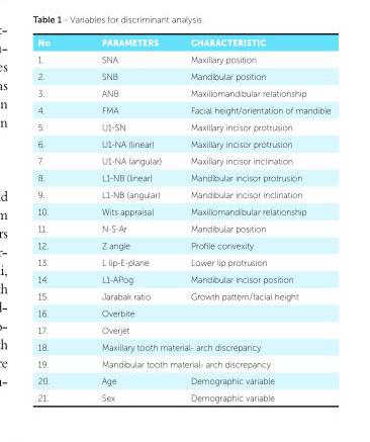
<table><tbody><tr><td>No</td><td>PARAMETERS</td><td>CHARACTERISTIC</td></tr><tr><td>1.</td><td>SNA</td><td>Maxillary position</td></tr><tr><td>2.</td><td>SNB</td><td>Mandibular position</td></tr><tr><td>3.</td><td>ANB</td><td>Maxillomandibular relationship</td></tr><tr><td>4.</td><td>FMA</td><td>Facial height/orientation of mandible</td></tr><tr><td>5.</td><td>U1-SN</td><td>Maxillary incisor protrusion</td></tr><tr><td>6.</td><td>U1-NA (linear)</td><td>Maxillary incisor protrusion</td></tr><tr><td>7.</td><td>U1-NA (angular)</td><td>Maxillary incisor inclination</td></tr><tr><td>8.</td><td>L1-NB (linear)</td><td>Mandibular incisor protrusion</td></tr><tr><td>9.</td><td>L1-NB (angular)</td><td>Mandibular incisor inclination</td></tr><tr><td>10.</td><td>Wits appraisal</td><td>Maxillomandibular relationship</td></tr><tr><td>11.</td><td>N-S-Ar</td><td>Mandibular position</td></tr><tr><td>12.</td><td>Z angle</td><td>Profile convexity</td></tr><tr><td>13.</td><td>L lip-E-plane</td><td>Lower lip protrusion</td></tr><tr><td>14.</td><td>L1-APog</td><td>Mandibular incisor position</td></tr><tr><td>15.</td><td>Jarabak ratio</td><td>Growth pattern/facial height</td></tr><tr><td>16.</td><td>Overbite</td><td></td></tr><tr><td>17.</td><td>Overjet</td><td></td></tr><tr><td>18.</td><td colspan="2">Maxillary tooth material- arch discrepancy</td></tr><tr><td>19.</td><td colspan="2">Mandibular tooth material- arch discrepancy</td></tr><tr><td>20.</td><td>Age</td><td>Demographic variable</td></tr><tr><td>21.</td><td>Sex</td><td>Demographic variable</td></tr></tbody></table>